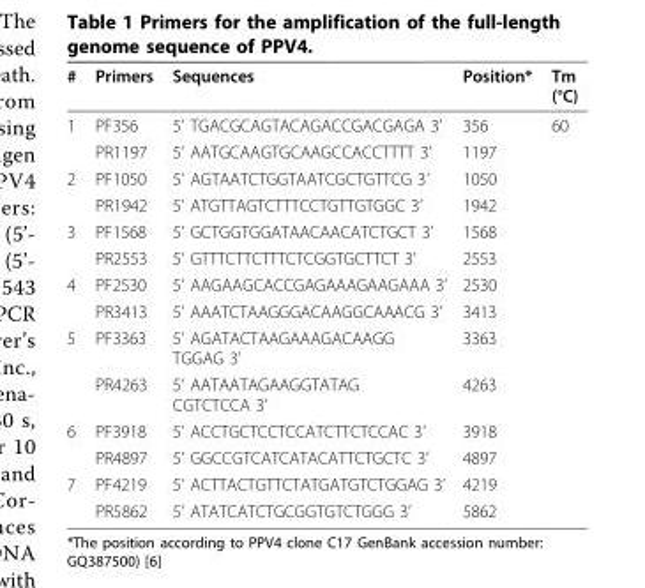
<table><thead><tr><td>#</td><td>Primers</td><td>Sequences</td><td>Position*</td><td>Tm (°C)</td></tr></thead><tbody><tr><td rowspan="2">1</td><td>PF356</td><td>5’ TGACGCAGTACAGACCGACGAGA 3’</td><td>356</td><td>60</td></tr><tr><td>PR1197</td><td>5’ AATGCAAGTGCAAGCCACCTTTT 3’</td><td>1197</td><td></td></tr><tr><td rowspan="2">2</td><td>PF1050</td><td>5’ AGTAATCTGGTAATCGCTGTTCG 3’</td><td>1050</td><td></td></tr><tr><td>PR1942</td><td>5’ ATGTTAGTCTTTCCTGTTGTGGC 3’</td><td>1942</td><td></td></tr><tr><td rowspan="2">3</td><td>PF1568</td><td>5’ GCTGGTGGATAACAACATCTGCT 3’</td><td>1568</td><td></td></tr><tr><td>PR2553</td><td>5’ GTTTCTTCTTTCTCGGTGCTTCT 3’</td><td>2553</td><td></td></tr><tr><td rowspan="2">4</td><td>PF2530</td><td>5’ AAGAAGCACCGAGAAAGAAGAAA 3’</td><td>2530</td><td></td></tr><tr><td>PR3413</td><td>5’ AAATCTAAGGGACAAGGCAAACG 3’</td><td>3413</td><td></td></tr><tr><td rowspan="2">5</td><td>PF3363</td><td>5’ AGATACTAAGAAAGACAAGG TGGAG 3’</td><td>3363</td><td></td></tr><tr><td>PR4263</td><td>5’ AATAATAGAAGGTATAG CGTCTCCA 3’</td><td>4263</td><td></td></tr><tr><td rowspan="2">6</td><td>PF3918</td><td>5’ ACCTGCTCCTCCATCTTCTCCAC 3’</td><td>3918</td><td></td></tr><tr><td>PR4897</td><td>5’ GGCCGTCATCATACATTCTGCTC 3’</td><td>4897</td><td></td></tr><tr><td rowspan="2">7</td><td>PF4219</td><td>5’ ACTTACTGTTCTATGATGTCTGGAG 3’</td><td>4219</td><td></td></tr><tr><td>PR5862</td><td>5’ ATATCATCTGCGGTGTCTGGG 3’</td><td>5862</td><td></td></tr></tbody></table>